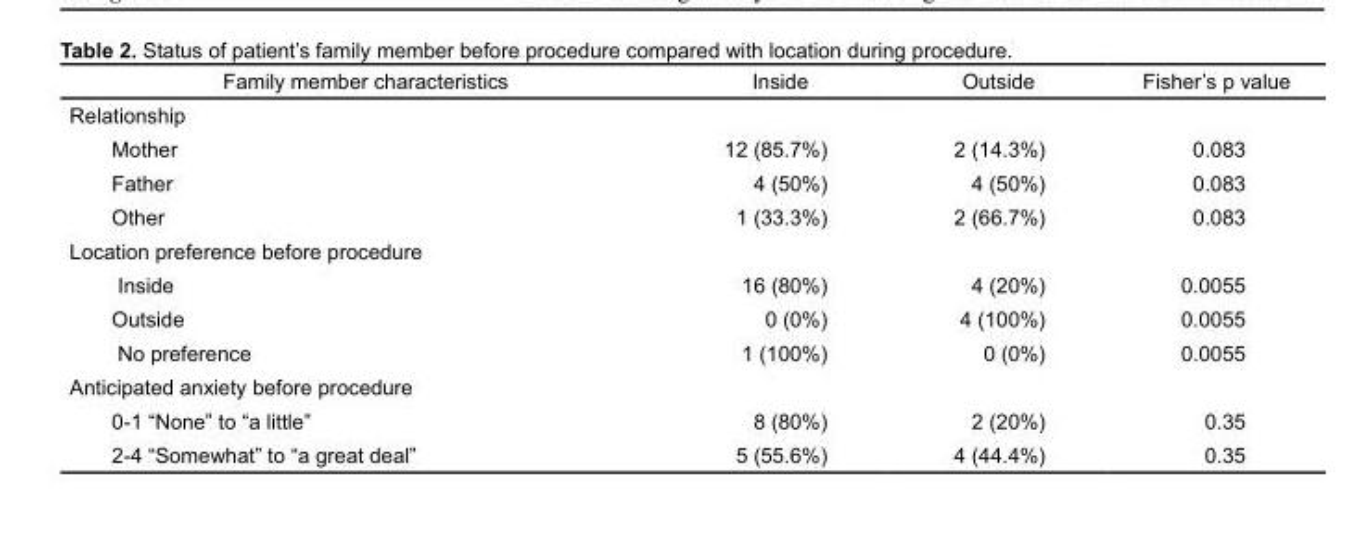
<table><thead><tr><td>Family member characteristics</td><td>Inside</td><td>Outside</td><td>Fisher’s p value</td></tr></thead><tbody><tr><td colspan="4">Relationship</td></tr><tr><td>Mother</td><td>12 (85.7%)</td><td>2 (14.3%)</td><td>0.083</td></tr><tr><td>Father</td><td>4 (50%)</td><td>4 (50%)</td><td>0.083</td></tr><tr><td>Other</td><td>1 (33.3%)</td><td>2 (66.7%)</td><td>0.083</td></tr><tr><td colspan="4">Location preference before procedure</td></tr><tr><td>Inside</td><td>16 (80%)</td><td>4 (20%)</td><td>0.0055</td></tr><tr><td>Outside</td><td>0 (0%)</td><td>4 (100%)</td><td>0.0055</td></tr><tr><td>No preference</td><td>1 (100%)</td><td>0 (0%)</td><td>0.0055</td></tr><tr><td colspan="4">Anticipated anxiety before procedure</td></tr><tr><td>0-1 “None” to “a little”</td><td>8 (80%)</td><td>2 (20%)</td><td>0.35</td></tr><tr><td>2-4 “Somewhat” to “a great deal”</td><td>5 (55.6%)</td><td>4 (44.4%)</td><td>0.35</td></tr></tbody></table>